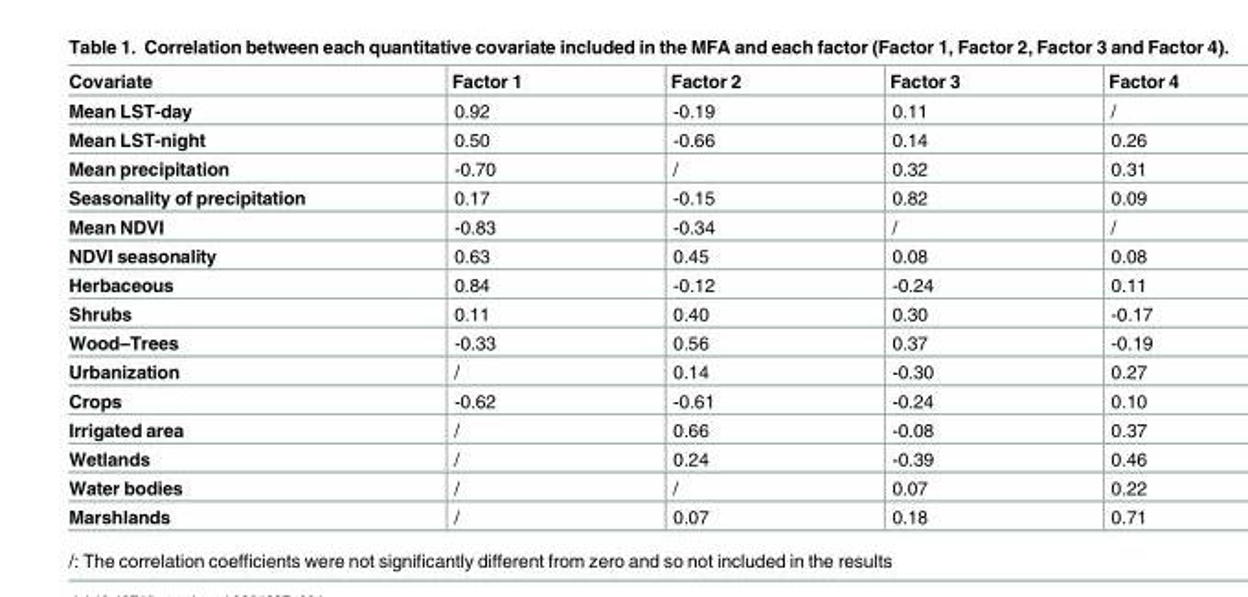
<table><thead><tr><td>Covariate</td><td>Factor 1</td><td>Factor 2</td><td>Factor 3</td><td>Factor 4</td></tr></thead><tbody><tr><td>Mean LST-day</td><td>0.92</td><td>-0.19</td><td>0.11</td><td>/</td></tr><tr><td>Mean LST-night</td><td>0.50</td><td>-0.66</td><td>0.14</td><td>0.26</td></tr><tr><td>Mean precipitation</td><td>-0.70</td><td>/</td><td>0.32</td><td>0.31</td></tr><tr><td>Seasonality of precipitation</td><td>0.17</td><td>-0.15</td><td>0.82</td><td>0.09</td></tr><tr><td>Mean NDVI</td><td>-0.83</td><td>-0.34</td><td>/</td><td>/</td></tr><tr><td>NDVI seasonality</td><td>0.63</td><td>0.45</td><td>0.08</td><td>0.08</td></tr><tr><td>Herbaceous</td><td>0.84</td><td>-0.12</td><td>-0.24</td><td>0.11</td></tr><tr><td>Shrubs</td><td>0.11</td><td>0.40</td><td>0.30</td><td>-0.17</td></tr><tr><td>Wood–Trees</td><td>-0.33</td><td>0.56</td><td>0.37</td><td>-0.19</td></tr><tr><td>Urbanization</td><td>/</td><td>0.14</td><td>-0.30</td><td>0.27</td></tr><tr><td>Crops</td><td>-0.62</td><td>-0.61</td><td>-0.24</td><td>0.10</td></tr><tr><td>Irrigated area</td><td>/</td><td>0.66</td><td>-0.08</td><td>0.37</td></tr><tr><td>Wetlands</td><td>/</td><td>0.24</td><td>-0.39</td><td>0.46</td></tr><tr><td>Water bodies</td><td>/</td><td>/</td><td>0.07</td><td>0.22</td></tr><tr><td>Marshlands</td><td>/</td><td>0.07</td><td>0.18</td><td>0.71</td></tr></tbody></table>